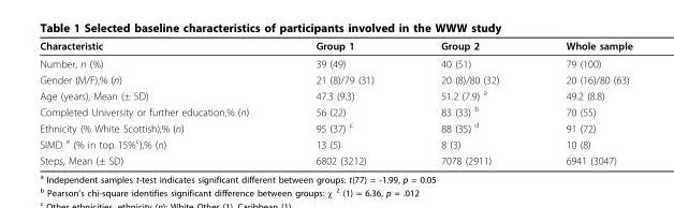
<table><thead><tr><td>Characteristic</td><td>Group 1</td><td>Group 2</td><td>Whole sample</td></tr></thead><tbody><tr><td>Number, n (%)</td><td>39 (49)</td><td>40 (51)</td><td>79 (100)</td></tr><tr><td>Gender (M/F),% (n)</td><td>21 (8)/79 (31)</td><td>20 (8)/80 (32)</td><td>20 (16)/80 (63)</td></tr><tr><td>Age (years), Mean (± SD)</td><td>47.3 (9.3)</td><td>51.2 (7.9) <sup>a</sup></td><td>49.2 (8.8)</td></tr><tr><td>Completed University or further education,% (n)</td><td>56 (22)</td><td>83 (33) <sup>b</sup></td><td>70 (55)</td></tr><tr><td>Ethnicity (% White Scottish),% (n)</td><td>95 (37) <sup>c</sup></td><td>88 (35) <sup>d</sup></td><td>91 (72)</td></tr><tr><td>SIMD <sup>e</sup> (% in top 15%<sup>c</sup>),% (n)</td><td>13 (5)</td><td>8 (3)</td><td>10 (8)</td></tr><tr><td>Steps, Mean (± SD)</td><td>6802 (3212)</td><td>7078 (2911)</td><td>6941 (3047)</td></tr></tbody></table>